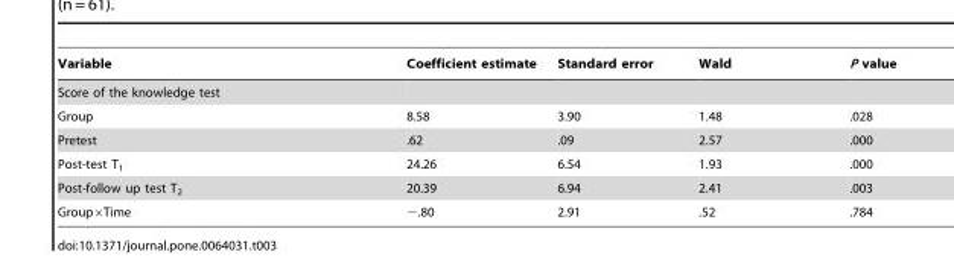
<table><thead><tr><td>Variable</td><td>Coefficient estimate</td><td>Standard error</td><td>Wald</td><td>P value</td></tr></thead><tbody><tr><td colspan="5">Score of the knowledge test</td></tr><tr><td>Group</td><td>8.58</td><td>3.90</td><td>1.48</td><td>.028</td></tr><tr><td>Pretest</td><td>.62</td><td>.09</td><td>2.57</td><td>.000</td></tr><tr><td>Post-test T<sub>1</sub></td><td>24.26</td><td>6.54</td><td>1.93</td><td>.000</td></tr><tr><td>Post-follow up test T<sub>2</sub></td><td>20.39</td><td>6.94</td><td>2.41</td><td>.003</td></tr><tr><td>Group×Time</td><td>−.80</td><td>2.91</td><td>.52</td><td>.784</td></tr></tbody></table>